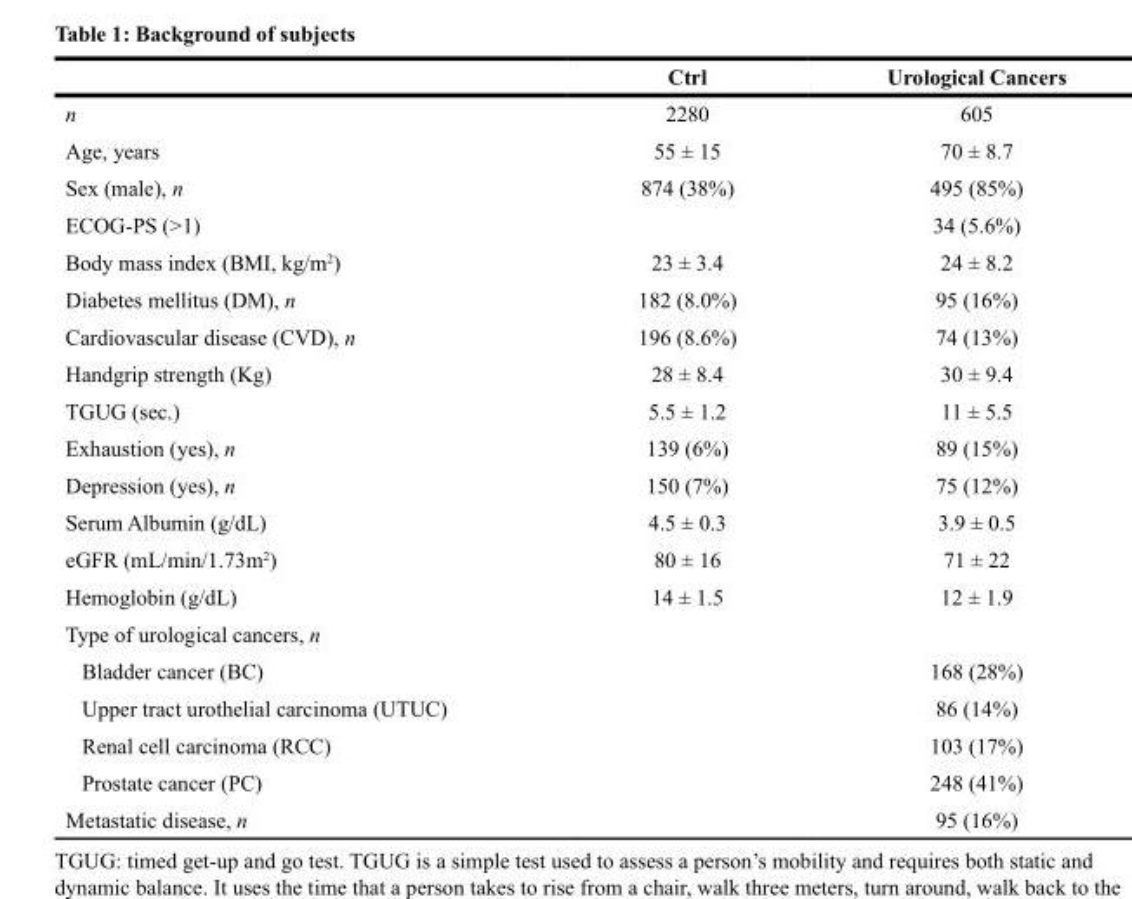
<table><thead><tr><td></td><td>Ctrl</td><td>Urological Cancers</td></tr></thead><tbody><tr><td>n</td><td>2280</td><td>605</td></tr><tr><td>Age, years</td><td>55 ± 15</td><td>70 ± 8.7</td></tr><tr><td>Sex (male), n</td><td>874 (38%)</td><td>495 (85%)</td></tr><tr><td>ECOG-PS (&gt;1)</td><td></td><td>34 (5.6%)</td></tr><tr><td>Body mass index (BMI, kg/m<sup>2</sup>)</td><td>23 ± 3.4</td><td>24 ± 8.2</td></tr><tr><td>Diabetes mellitus (DM), n</td><td>182 (8.0%)</td><td>95 (16%)</td></tr><tr><td>Cardiovascular disease (CVD), n</td><td>196 (8.6%)</td><td>74 (13%)</td></tr><tr><td>Handgrip strength (Kg)</td><td>28 ± 8.4</td><td>30 ± 9.4</td></tr><tr><td>TGUG (sec.)</td><td>5.5 ± 1.2</td><td>11 ± 5.5</td></tr><tr><td>Exhaustion (yes), n</td><td>139 (6%)</td><td>89 (15%)</td></tr><tr><td>Depression (yes), n</td><td>150 (7%)</td><td>75 (12%)</td></tr><tr><td>Serum Albumin (g/dL)</td><td>4.5 ± 0.3</td><td>3.9 ± 0.5</td></tr><tr><td>eGFR (mL/min/1.73m<sup>2</sup>)</td><td>80 ± 16</td><td>71 ± 22</td></tr><tr><td>Hemoglobin (g/dL)</td><td>14 ± 1.5</td><td>12 ± 1.9</td></tr><tr><td colspan="3">Type of urological cancers, n</td></tr><tr><td>Bladder cancer (BC)</td><td></td><td>168 (28%)</td></tr><tr><td>Upper tract urothelial carcinoma (UTUC)</td><td></td><td>86 (14%)</td></tr><tr><td>Renal cell carcinoma (RCC)</td><td></td><td>103 (17%)</td></tr><tr><td>Prostate cancer (PC)</td><td></td><td>248 (41%)</td></tr><tr><td>Metastatic disease, n</td><td></td><td>95 (16%)</td></tr></tbody></table>